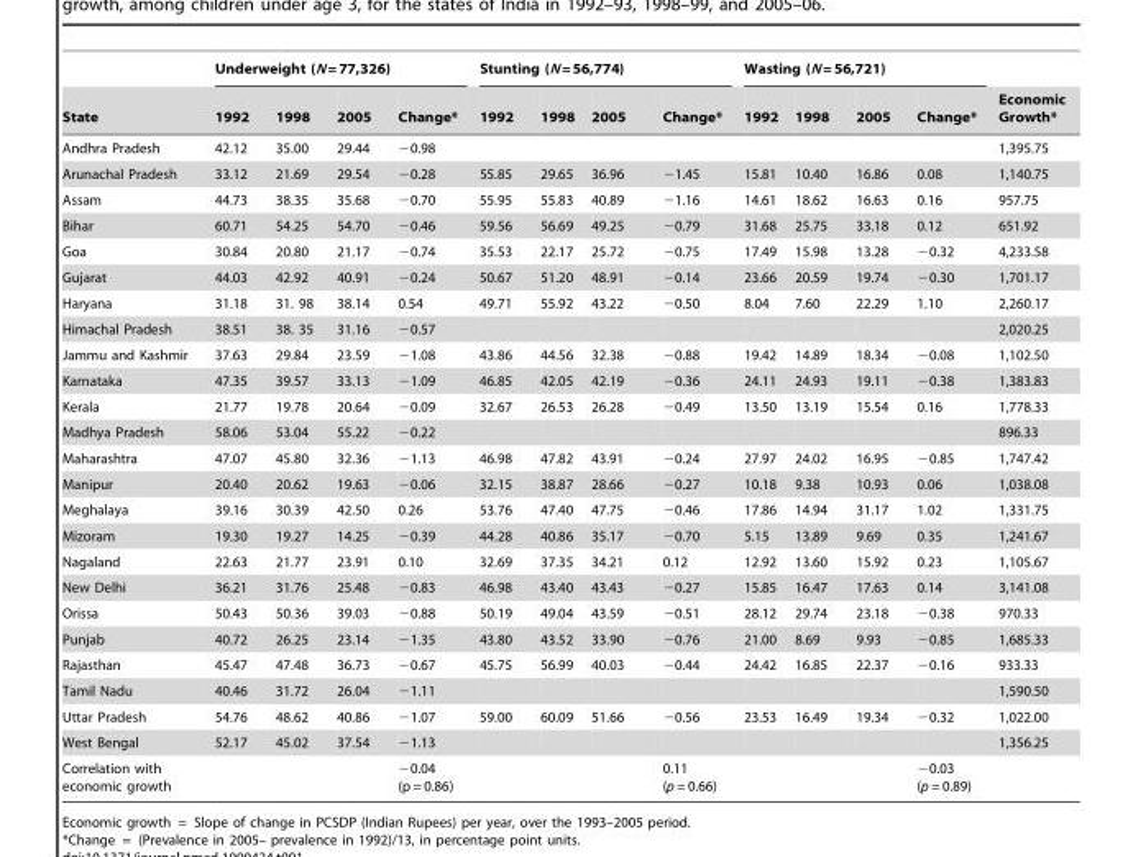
<table><thead><tr><td rowspan="2">State</td><td colspan="4">Underweight (N = 77,326)</td><td colspan="4">Stunting (N = 56,774)</td><td colspan="4">Wasting (N = 56,721)</td><td rowspan="2">Economic Growth*</td></tr><tr><td>1992</td><td>1998</td><td>2005</td><td>Change*</td><td>1992</td><td>1998</td><td>2005</td><td>Change*</td><td>1992</td><td>1998</td><td>2005</td><td>Change*</td></tr></thead><tbody><tr><td>Andhra Pradesh</td><td>42.12</td><td>35.00</td><td>29.44</td><td>−0.98</td><td></td><td></td><td></td><td></td><td></td><td></td><td></td><td></td><td>1,395.75</td></tr><tr><td>Arunachal Pradesh</td><td>33.12</td><td>21.69</td><td>29.54</td><td>−0.28</td><td>55.85</td><td>29.65</td><td>36.96</td><td>−1.45</td><td>15.81</td><td>10.40</td><td>16.86</td><td>0.08</td><td>1,140.75</td></tr><tr><td>Assam</td><td>44.73</td><td>38.35</td><td>35.68</td><td>−0.70</td><td>55.95</td><td>55.83</td><td>40.89</td><td>−1.16</td><td>14.61</td><td>18.62</td><td>16.63</td><td>0.16</td><td>957.75</td></tr><tr><td>Bihar</td><td>60.71</td><td>54.25</td><td>54.70</td><td>−0.46</td><td>59.56</td><td>56.69</td><td>49.25</td><td>−0.79</td><td>31.68</td><td>25.75</td><td>33.18</td><td>0.12</td><td>651.92</td></tr><tr><td>Goa</td><td>30.84</td><td>20.80</td><td>21.17</td><td>−0.74</td><td>35.53</td><td>22.17</td><td>25.72</td><td>−0.75</td><td>17.49</td><td>15.98</td><td>13.28</td><td>−0.32</td><td>4,233.58</td></tr><tr><td>Gujarat</td><td>44.03</td><td>42.92</td><td>40.91</td><td>−0.24</td><td>50.67</td><td>51.20</td><td>48.91</td><td>−0.14</td><td>23.66</td><td>20.59</td><td>19.74</td><td>−0.30</td><td>1,701.17</td></tr><tr><td>Haryana</td><td>31.18</td><td>31. 98</td><td>38.14</td><td>0.54</td><td>49.71</td><td>55.92</td><td>43.22</td><td>−0.50</td><td>8.04</td><td>7.60</td><td>22.29</td><td>1.10</td><td>2,260.17</td></tr><tr><td>Himachal Pradesh</td><td>38.51</td><td>38. 35</td><td>31.16</td><td>−0.57</td><td></td><td></td><td></td><td></td><td></td><td></td><td></td><td></td><td>2,020.25</td></tr><tr><td>Jammu and Kashmir</td><td>37.63</td><td>29.84</td><td>23.59</td><td>−1.08</td><td>43.86</td><td>44.56</td><td>32.38</td><td>−0.88</td><td>19.42</td><td>14.89</td><td>18.34</td><td>−0.08</td><td>1,102.50</td></tr><tr><td>Karnataka</td><td>47.35</td><td>39.57</td><td>33.13</td><td>−1.09</td><td>46.85</td><td>42.05</td><td>42.19</td><td>−0.36</td><td>24.11</td><td>24.93</td><td>19.11</td><td>−0.38</td><td>1,383.83</td></tr><tr><td>Kerala</td><td>21.77</td><td>19.78</td><td>20.64</td><td>−0.09</td><td>32.67</td><td>26.53</td><td>26.28</td><td>−0.49</td><td>13.50</td><td>13.19</td><td>15.54</td><td>0.16</td><td>1,778.33</td></tr><tr><td>Madhya Pradesh</td><td>58.06</td><td>53.04</td><td>55.22</td><td>−0.22</td><td></td><td></td><td></td><td></td><td></td><td></td><td></td><td></td><td>896.33</td></tr><tr><td>Maharashtra</td><td>47.07</td><td>45.80</td><td>32.36</td><td>−1.13</td><td>46.98</td><td>47.82</td><td>43.91</td><td>−0.24</td><td>27.97</td><td>24.02</td><td>16.95</td><td>−0.85</td><td>1,747.42</td></tr><tr><td>Manipur</td><td>20.40</td><td>20.62</td><td>19.63</td><td>−0.06</td><td>32.15</td><td>38.87</td><td>28.66</td><td>−0.27</td><td>10.18</td><td>9.38</td><td>10.93</td><td>0.06</td><td>1,038.08</td></tr><tr><td>Meghalaya</td><td>39.16</td><td>30.39</td><td>42.50</td><td>0.26</td><td>53.76</td><td>47.40</td><td>47.75</td><td>−0.46</td><td>17.86</td><td>14.94</td><td>31.17</td><td>1.02</td><td>1,331.75</td></tr><tr><td>Mizoram</td><td>19.30</td><td>19.27</td><td>14.25</td><td>−0.39</td><td>44.28</td><td>40.86</td><td>35.17</td><td>−0.70</td><td>5.15</td><td>13.89</td><td>9.69</td><td>0.35</td><td>1,241.67</td></tr><tr><td>Nagaland</td><td>22.63</td><td>21.77</td><td>23.91</td><td>0.10</td><td>32.69</td><td>37.35</td><td>34.21</td><td>0.12</td><td>12.92</td><td>13.60</td><td>15.92</td><td>0.23</td><td>1,105.67</td></tr><tr><td>New Delhi</td><td>36.21</td><td>31.76</td><td>25.48</td><td>−0.83</td><td>46.98</td><td>43.40</td><td>43.43</td><td>−0.27</td><td>15.85</td><td>16.47</td><td>17.63</td><td>0.14</td><td>3,141.08</td></tr><tr><td>Orissa</td><td>50.43</td><td>50.36</td><td>39.03</td><td>−0.88</td><td>50.19</td><td>49.04</td><td>43.59</td><td>−0.51</td><td>28.12</td><td>29.74</td><td>23.18</td><td>−0.38</td><td>970.33</td></tr><tr><td>Punjab</td><td>40.72</td><td>26.25</td><td>23.14</td><td>−1.35</td><td>43.80</td><td>43.52</td><td>33.90</td><td>−0.76</td><td>21.00</td><td>8.69</td><td>9.93</td><td>−0.85</td><td>1,685.33</td></tr><tr><td>Rajasthan</td><td>45.47</td><td>47.48</td><td>36.73</td><td>−0.67</td><td>45.75</td><td>56.99</td><td>40.03</td><td>−0.44</td><td>24.42</td><td>16.85</td><td>22.37</td><td>−0.16</td><td>933.33</td></tr><tr><td>Tamil Nadu</td><td>40.46</td><td>31.72</td><td>26.04</td><td>−1.11</td><td></td><td></td><td></td><td></td><td></td><td></td><td></td><td></td><td>1,590.50</td></tr><tr><td>Uttar Pradesh</td><td>54.76</td><td>48.62</td><td>40.86</td><td>−1.07</td><td>59.00</td><td>60.09</td><td>51.66</td><td>−0.56</td><td>23.53</td><td>16.49</td><td>19.34</td><td>−0.32</td><td>1,022.00</td></tr><tr><td>West Bengal</td><td>52.17</td><td>45.02</td><td>37.54</td><td>−1.13</td><td></td><td></td><td></td><td></td><td></td><td></td><td></td><td></td><td>1,356.25</td></tr><tr><td>Correlation with economic growth</td><td></td><td></td><td></td><td>−0.04 (p = 0.86)</td><td></td><td></td><td></td><td>0.11 (p = 0.66)</td><td></td><td></td><td></td><td>−0.03 (p = 0.89)</td><td></td></tr></tbody></table>